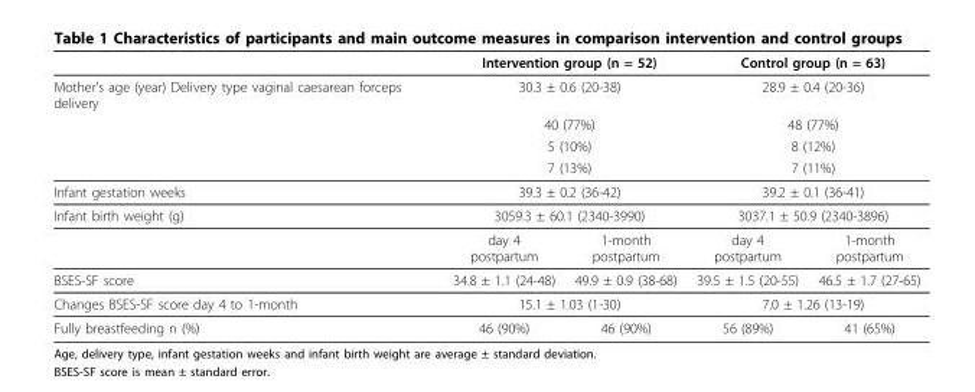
<table><thead><tr><td></td><td colspan="2">Intervention group (n = 52)</td><td colspan="2">Control group (n = 63)</td></tr></thead><tbody><tr><td rowspan="4">Mother’s age (year) Delivery type vaginal caesarean forceps delivery</td><td colspan="2">30.3 ± 0.6 (20-38)</td><td colspan="2">28.9 ± 0.4 (20-36)</td></tr><tr><td colspan="2">40 (77%)</td><td colspan="2">48 (77%)</td></tr><tr><td colspan="2">5 (10%)</td><td colspan="2">8 (12%)</td></tr><tr><td colspan="2">7 (13%)</td><td colspan="2">7 (11%)</td></tr><tr><td>Infant gestation weeks</td><td colspan="2">39.3 ± 0.2 (36-42)</td><td colspan="2">39.2 ± 0.1 (36-41)</td></tr><tr><td rowspan="2">Infant birth weight (g)</td><td colspan="2">3059.3 ± 60.1 (2340-3990)</td><td colspan="2">3037.1 ± 50.9 (2340-3896)</td></tr><tr><td>day 4 postpartum</td><td>1-month postpartum</td><td>day 4 postpartum</td><td>1-month postpartum</td></tr><tr><td>BSES-SF score</td><td>34.8 ± 1.1 (24-48)</td><td>49.9 ± 0.9 (38-68)</td><td>39.5 ± 1.5 (20-55)</td><td>46.5 ± 1.7 (27-65)</td></tr><tr><td>Changes BSES-SF score day 4 to 1-month</td><td colspan="2">15.1 ± 1.03 (1-30)</td><td colspan="2">7.0 ± 1.26 (13-19)</td></tr><tr><td>Fully breastfeeding n (%)</td><td>46 (90%)</td><td>46 (90%)</td><td>56 (89%)</td><td>41 (65%)</td></tr></tbody></table>